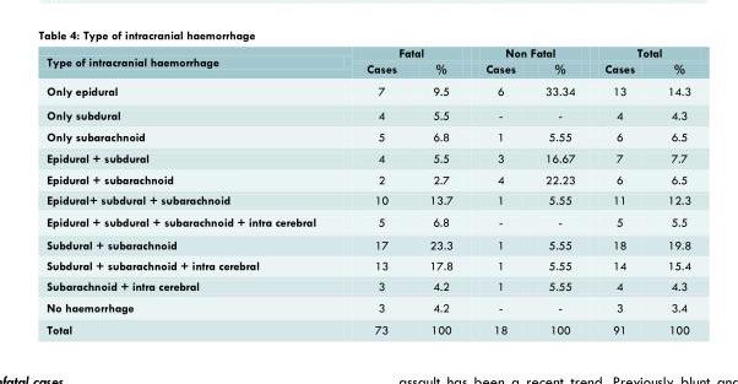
<table><thead><tr><td rowspan="2">Type of intracranial haemorrhage</td><td colspan="2">Fatal</td><td colspan="2">Non Fatal</td><td colspan="2">Total</td></tr><tr><td>Cases</td><td>%</td><td>Cases</td><td>%</td><td>Cases</td><td>%</td></tr></thead><tbody><tr><td>Only epidural</td><td>7</td><td>9.5</td><td>6</td><td>33.34</td><td>13</td><td>14.3</td></tr><tr><td>Only subdural</td><td>4</td><td>5.5</td><td>-</td><td>-</td><td>4</td><td>4.3</td></tr><tr><td>Only subarachnoid</td><td>5</td><td>6.8</td><td>1</td><td>5.55</td><td>6</td><td>6.5</td></tr><tr><td>Epidural + subdural</td><td>4</td><td>5.5</td><td>3</td><td>16.67</td><td>7</td><td>7.7</td></tr><tr><td>Epidural + subarachnoid</td><td>2</td><td>2.7</td><td>4</td><td>22.23</td><td>6</td><td>6.5</td></tr><tr><td>Epidural+ subdural + subarachnoid</td><td>10</td><td>13.7</td><td>1</td><td>5.55</td><td>11</td><td>12.3</td></tr><tr><td>Epidural + subdural + subarachnoid + intra cerebral</td><td>5</td><td>6.8</td><td>-</td><td>-</td><td>5</td><td>5.5</td></tr><tr><td>Subdural + subarachnoid</td><td>17</td><td>23.3</td><td>1</td><td>5.55</td><td>18</td><td>19.8</td></tr><tr><td>Subdural + subarachnoid + intra cerebral</td><td>13</td><td>17.8</td><td>1</td><td>5.55</td><td>14</td><td>15.4</td></tr><tr><td>Subarachnoid + intra cerebral</td><td>3</td><td>4.2</td><td>1</td><td>5.55</td><td>4</td><td>4.3</td></tr><tr><td>No haemorrhage</td><td>3</td><td>4.2</td><td>-</td><td>-</td><td>3</td><td>3.4</td></tr><tr><td>Total</td><td>73</td><td>100</td><td>18</td><td>100</td><td>91</td><td>100</td></tr></tbody></table>